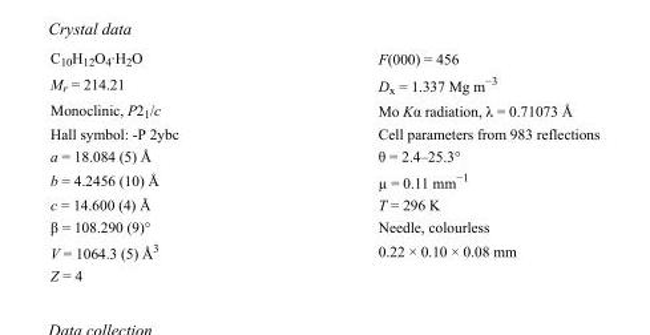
<table><tbody><tr><td>C<sub>10</sub>H<sub>12</sub>O<sub>4</sub>·H<sub>2</sub>O</td><td>F(000) = 456</td></tr><tr><td>M<sub>r</sub> = 214.21</td><td>D<sub>x</sub> = 1.337 Mg m<sup>−3</sup></td></tr><tr><td>Monoclinic, P2<sub>1</sub>/c</td><td>Mo Kα radiation, λ = 0.71073 Å</td></tr><tr><td>Hall symbol: -P 2ybc</td><td>Cell parameters from 983 reflections</td></tr><tr><td>a = 18.084 (5) Å</td><td>θ = 2.4–25.3°</td></tr><tr><td>b = 4.2456 (10) Å</td><td>µ = 0.11 mm<sup>−1</sup></td></tr><tr><td>c = 14.600 (4) Å</td><td>T = 296 K</td></tr><tr><td>β = 108.290 (9)°</td><td>Needle, colourless</td></tr><tr><td>V = 1064.3 (5) Å<sup>3</sup></td><td>0.22 × 0.10 × 0.08 mm</td></tr><tr><td>Z = 4</td><td></td></tr></tbody></table>